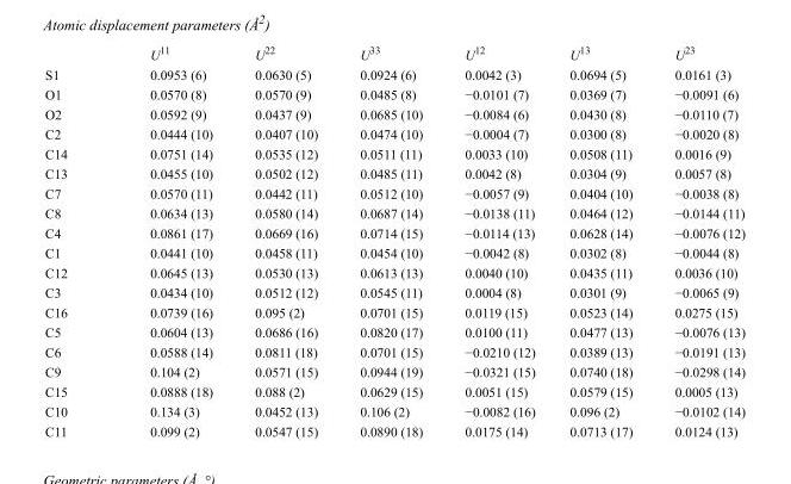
<table><thead><tr><td></td><td>U<sup>11</sup></td><td>U<sup>22</sup></td><td>U<sup>33</sup></td><td>U<sup>12</sup></td><td>U<sup>13</sup></td><td>U<sup>23</sup></td></tr></thead><tbody><tr><td>S1</td><td>0.0953 (6)</td><td>0.0630 (5)</td><td>0.0924 (6)</td><td>0.0042 (3)</td><td>0.0694 (5)</td><td>0.0161 (3)</td></tr><tr><td>O1</td><td>0.0570 (8)</td><td>0.0570 (9)</td><td>0.0485 (8)</td><td>−0.0101 (7)</td><td>0.0369 (7)</td><td>−0.0091 (6)</td></tr><tr><td>O2</td><td>0.0592 (9)</td><td>0.0437 (9)</td><td>0.0685 (10)</td><td>−0.0084 (6)</td><td>0.0430 (8)</td><td>−0.0110 (7)</td></tr><tr><td>C2</td><td>0.0444 (10)</td><td>0.0407 (10)</td><td>0.0474 (10)</td><td>−0.0004 (7)</td><td>0.0300 (8)</td><td>−0.0020 (8)</td></tr><tr><td>C14</td><td>0.0751 (14)</td><td>0.0535 (12)</td><td>0.0511 (11)</td><td>0.0033 (10)</td><td>0.0508 (11)</td><td>0.0016 (9)</td></tr><tr><td>C13</td><td>0.0455 (10)</td><td>0.0502 (12)</td><td>0.0485 (11)</td><td>0.0042 (8)</td><td>0.0304 (9)</td><td>0.0057 (8)</td></tr><tr><td>C7</td><td>0.0570 (11)</td><td>0.0442 (11)</td><td>0.0512 (10)</td><td>−0.0057 (9)</td><td>0.0404 (10)</td><td>−0.0038 (8)</td></tr><tr><td>C8</td><td>0.0634 (13)</td><td>0.0580 (14)</td><td>0.0687 (14)</td><td>−0.0138 (11)</td><td>0.0464 (12)</td><td>−0.0144 (11)</td></tr><tr><td>C4</td><td>0.0861 (17)</td><td>0.0669 (16)</td><td>0.0714 (15)</td><td>−0.0114 (13)</td><td>0.0628 (14)</td><td>−0.0076 (12)</td></tr><tr><td>C1</td><td>0.0441 (10)</td><td>0.0458 (11)</td><td>0.0454 (10)</td><td>−0.0042 (8)</td><td>0.0302 (8)</td><td>−0.0044 (8)</td></tr><tr><td>C12</td><td>0.0645 (13)</td><td>0.0530 (13)</td><td>0.0613 (13)</td><td>0.0040 (10)</td><td>0.0435 (11)</td><td>0.0036 (10)</td></tr><tr><td>C3</td><td>0.0434 (10)</td><td>0.0512 (12)</td><td>0.0545 (11)</td><td>0.0004 (8)</td><td>0.0301 (9)</td><td>−0.0065 (9)</td></tr><tr><td>C16</td><td>0.0739 (16)</td><td>0.095 (2)</td><td>0.0701 (15)</td><td>0.0119 (15)</td><td>0.0523 (14)</td><td>0.0275 (15)</td></tr><tr><td>C5</td><td>0.0604 (13)</td><td>0.0686 (16)</td><td>0.0820 (17)</td><td>0.0100 (11)</td><td>0.0477 (13)</td><td>−0.0076 (13)</td></tr><tr><td>C6</td><td>0.0588 (14)</td><td>0.0811 (18)</td><td>0.0701 (15)</td><td>−0.0210 (12)</td><td>0.0389 (13)</td><td>−0.0191 (13)</td></tr><tr><td>C9</td><td>0.104 (2)</td><td>0.0571 (15)</td><td>0.0944 (19)</td><td>−0.0321 (15)</td><td>0.0740 (18)</td><td>−0.0298 (14)</td></tr><tr><td>C15</td><td>0.0888 (18)</td><td>0.088 (2)</td><td>0.0629 (15)</td><td>0.0051 (15)</td><td>0.0579 (15)</td><td>0.0005 (13)</td></tr><tr><td>C10</td><td>0.134 (3)</td><td>0.0452 (13)</td><td>0.106 (2)</td><td>−0.0082 (16)</td><td>0.096 (2)</td><td>−0.0102 (14)</td></tr><tr><td>C11</td><td>0.099 (2)</td><td>0.0547 (15)</td><td>0.0890 (18)</td><td>0.0175 (14)</td><td>0.0713 (17)</td><td>0.0124 (13)</td></tr></tbody></table>